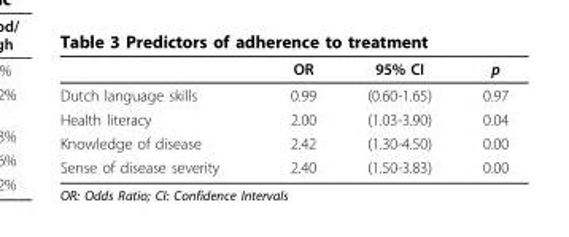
<table><thead><tr><td></td><td>OR</td><td>95% CI</td><td>p</td></tr></thead><tbody><tr><td>Dutch language skills</td><td>0.99</td><td>(0.60-1.65)</td><td>0.97</td></tr><tr><td>Health literacy</td><td>2.00</td><td>(1.03-3.90)</td><td>0.04</td></tr><tr><td>Knowledge of disease</td><td>2.42</td><td>(1.30-4.50)</td><td>0.00</td></tr><tr><td>Sense of disease severity</td><td>2.40</td><td>(1.50-3.83)</td><td>0.00</td></tr></tbody></table>